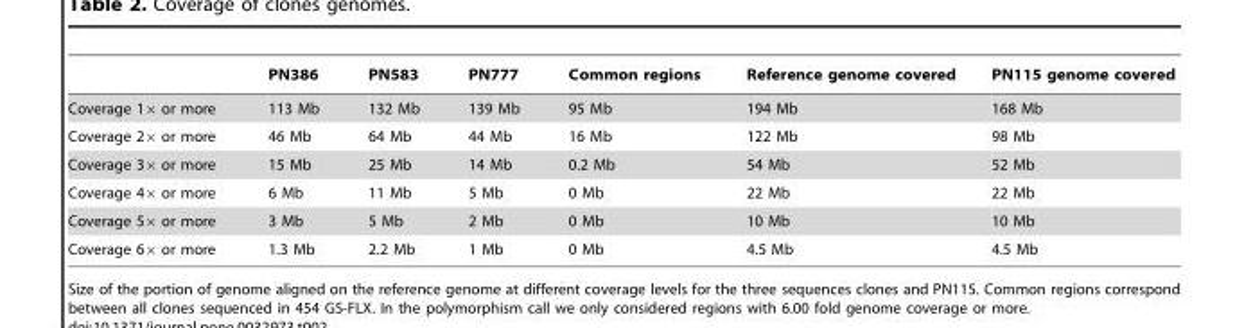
<table><thead><tr><td></td><td>PN386</td><td>PN583</td><td>PN777</td><td>Common regions</td><td>Reference genome covered</td><td>PN115 genome covered</td></tr></thead><tbody><tr><td>Coverage 1× or more</td><td>113 Mb</td><td>132 Mb</td><td>139 Mb</td><td>95 Mb</td><td>194 Mb</td><td>168 Mb</td></tr><tr><td>Coverage 2× or more</td><td>46 Mb</td><td>64 Mb</td><td>44 Mb</td><td>16 Mb</td><td>122 Mb</td><td>98 Mb</td></tr><tr><td>Coverage 3× or more</td><td>15 Mb</td><td>25 Mb</td><td>14 Mb</td><td>0.2 Mb</td><td>54 Mb</td><td>52 Mb</td></tr><tr><td>Coverage 4× or more</td><td>6 Mb</td><td>11 Mb</td><td>5 Mb</td><td>0 Mb</td><td>22 Mb</td><td>22 Mb</td></tr><tr><td>Coverage 5× or more</td><td>3 Mb</td><td>5 Mb</td><td>2 Mb</td><td>0 Mb</td><td>10 Mb</td><td>10 Mb</td></tr><tr><td>Coverage 6× or more</td><td>1.3 Mb</td><td>2.2 Mb</td><td>1 Mb</td><td>0 Mb</td><td>4.5 Mb</td><td>4.5 Mb</td></tr></tbody></table>